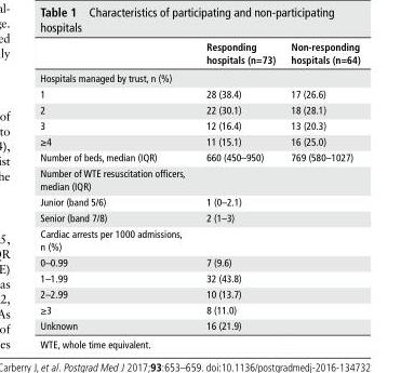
<table><thead><tr><td></td><td>responding hospitals (n=73)</td><td>non-responding hospitals (n=64)</td></tr></thead><tbody><tr><td colspan="3">Hospitals managed by trust, n (%)</td></tr><tr><td>1</td><td>28 (38.4)</td><td>17 (26.6)</td></tr><tr><td>2</td><td>22 (30.1)</td><td>18 (28.1)</td></tr><tr><td>3</td><td>12 (16.4)</td><td>13 (20.3)</td></tr><tr><td>≥4</td><td>11 (15.1)</td><td>16 (25.0)</td></tr><tr><td>Number of beds, median (IQR)</td><td>660 (450–950)</td><td>769 (580–1027)</td></tr><tr><td colspan="3">Number of WTE resuscitation officers, median (IQR)</td></tr><tr><td>Junior (band 5/6)</td><td>1 (0–2.1)</td><td></td></tr><tr><td>Senior (band 7/8)</td><td>2 (1–3)</td><td></td></tr><tr><td colspan="3">Cardiac arrests per 1000 admissions, n (%)</td></tr><tr><td>0–0.99</td><td>7 (9.6)</td><td></td></tr><tr><td>1–1.99</td><td>32 (43.8)</td><td></td></tr><tr><td>2–2.99</td><td>10 (13.7)</td><td></td></tr><tr><td>≥3</td><td>8 (11.0)</td><td></td></tr><tr><td>Unknown</td><td>16 (21.9)</td><td></td></tr></tbody></table>